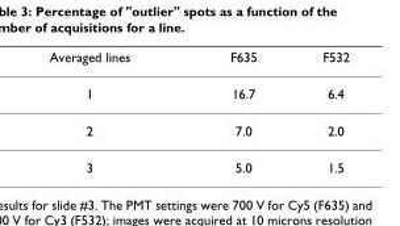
<table><thead><tr><td>Averaged lines</td><td>F635</td><td>F532</td></tr></thead><tbody><tr><td>1</td><td>16.7</td><td>6.4</td></tr><tr><td>2</td><td>7.0</td><td>2.0</td></tr><tr><td>3</td><td>5.0</td><td>1.5</td></tr></tbody></table>